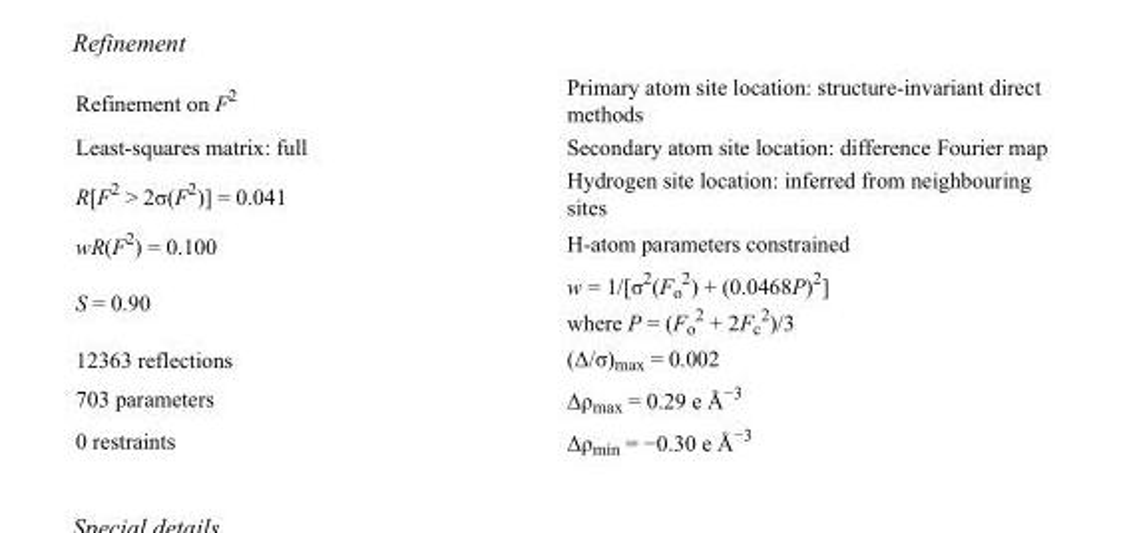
<table><tbody><tr><td>Refinement on F<sup>2</sup></td><td>Primary atom site location: structure-invariant direct methods</td></tr><tr><td>Least-squares matrix: full</td><td>Secondary atom site location: difference Fourier map</td></tr><tr><td>R[F<sup>2</sup> &gt; 2σ(F<sup>2</sup>)] = 0.041</td><td>Hydrogen site location: inferred from neighbouring sites</td></tr><tr><td>wR(F<sup>2</sup>) = 0.100</td><td>H-atom parameters constrained</td></tr><tr><td>S = 0.90</td><td>w = 1/[σ<sup>2</sup>(F<sub>o</sub> <sup>2</sup>) + (0.0468P)<sup>2</sup>] where P = (F<sub>o</sub> <sup>2</sup> + 2F<sub>c</sub> <sup>2</sup>)/3</td></tr><tr><td>12363 reflections</td><td>(Δ/σ)<sub>max</sub> = 0.002</td></tr><tr><td>703 parameters</td><td>Δρ<sub>max</sub> = 0.29 e Å<sup>−3</sup></td></tr><tr><td>0 restraints</td><td>Δρ<sub>min</sub> = −0.30 e Å<sup>−3</sup></td></tr></tbody></table>